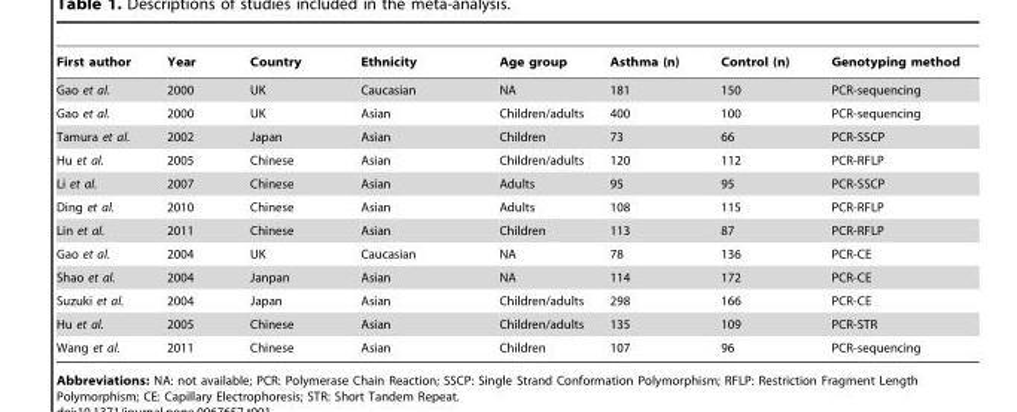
<table><thead><tr><td>First author</td><td>Year</td><td>Country</td><td>Ethnicity</td><td>Age group</td><td>Asthma (n)</td><td>Control (n)</td><td>Genotyping method</td></tr></thead><tbody><tr><td>Gao et al.</td><td>2000</td><td>UK</td><td>Caucasian</td><td>NA</td><td>181</td><td>150</td><td>PCR-sequencing</td></tr><tr><td>Gao et al.</td><td>2000</td><td>UK</td><td>Asian</td><td>Children/adults</td><td>400</td><td>100</td><td>PCR-sequencing</td></tr><tr><td>Tamura et al.</td><td>2002</td><td>Japan</td><td>Asian</td><td>Children</td><td>73</td><td>66</td><td>PCR-SSCP</td></tr><tr><td>Hu et al.</td><td>2005</td><td>Chinese</td><td>Asian</td><td>Children/adults</td><td>120</td><td>112</td><td>PCR-RFLP</td></tr><tr><td>Li et al.</td><td>2007</td><td>Chinese</td><td>Asian</td><td>Adults</td><td>95</td><td>95</td><td>PCR-SSCP</td></tr><tr><td>Ding et al.</td><td>2010</td><td>Chinese</td><td>Asian</td><td>Adults</td><td>108</td><td>115</td><td>PCR-RFLP</td></tr><tr><td>Lin et al.</td><td>2011</td><td>Chinese</td><td>Asian</td><td>Children</td><td>113</td><td>87</td><td>PCR-RFLP</td></tr><tr><td>Gao et al.</td><td>2004</td><td>UK</td><td>Caucasian</td><td>NA</td><td>78</td><td>136</td><td>PCR-CE</td></tr><tr><td>Shao et al.</td><td>2004</td><td>Janpan</td><td>Asian</td><td>NA</td><td>114</td><td>172</td><td>PCR-CE</td></tr><tr><td>Suzuki et al.</td><td>2004</td><td>Japan</td><td>Asian</td><td>Children/adults</td><td>298</td><td>166</td><td>PCR-CE</td></tr><tr><td>Hu et al.</td><td>2005</td><td>Chinese</td><td>Asian</td><td>Children/adults</td><td>135</td><td>109</td><td>PCR-STR</td></tr><tr><td>Wang et al.</td><td>2011</td><td>Chinese</td><td>Asian</td><td>Children</td><td>107</td><td>96</td><td>PCR-sequencing</td></tr></tbody></table>